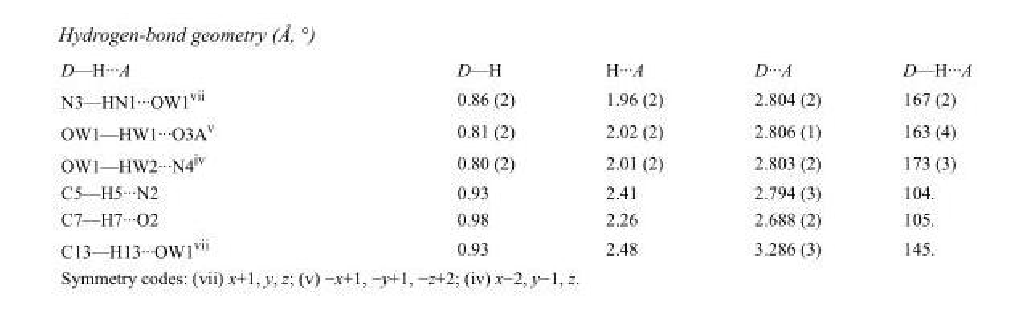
<table><tbody><tr><td>D—H···A</td><td>D—H</td><td>H···A</td><td>D···A</td><td>D—H···A</td></tr><tr><td>N3—HN1···OW1<sup>vii</sup></td><td>0.86 (2)</td><td>1.96 (2)</td><td>2.804 (2)</td><td>167 (2)</td></tr><tr><td>OW1—HW1···O3A<sup>v</sup></td><td>0.81 (2)</td><td>2.02 (2)</td><td>2.806 (1)</td><td>163 (4)</td></tr><tr><td>OW1—HW2···N4<sup>iv</sup></td><td>0.80 (2)</td><td>2.01 (2)</td><td>2.803 (2)</td><td>173 (3)</td></tr><tr><td>C5—H5···N2</td><td>0.93</td><td>2.41</td><td>2.794 (3)</td><td>104.</td></tr><tr><td>C7—H7···O2</td><td>0.98</td><td>2.26</td><td>2.688 (2)</td><td>105.</td></tr><tr><td>C13—H13···OW1<sup>vii</sup></td><td>0.93</td><td>2.48</td><td>3.286 (3)</td><td>145.</td></tr></tbody></table>